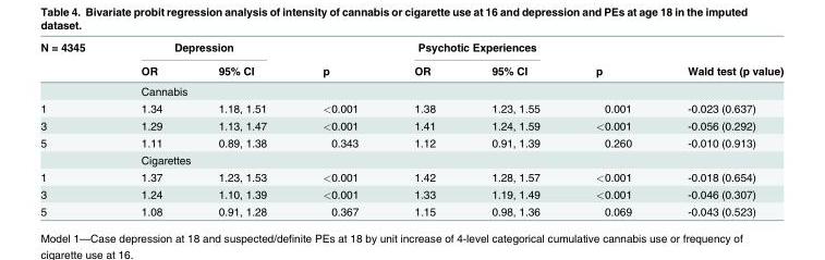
<table><thead><tr><td rowspan="2">N = 4345</td><td colspan="2">Depression</td><td rowspan="2">p</td><td colspan="2">Psychotic Experiences</td><td rowspan="2">p</td><td rowspan="2">Wald test (p value)</td></tr><tr><td>OR</td><td>95% CI</td><td>OR</td><td>95% CI</td></tr></thead><tbody><tr><td></td><td colspan="7">Cannabis</td></tr><tr><td>1</td><td>1.34</td><td>1.18, 1.51</td><td>&lt;0.001</td><td>1.38</td><td>1.23, 1.55</td><td>0.001</td><td>-0.023 (0.637)</td></tr><tr><td>3</td><td>1.29</td><td>1.13, 1.47</td><td>&lt;0.001</td><td>1.41</td><td>1.24, 1.59</td><td>&lt;0.001</td><td>-0.056 (0.292)</td></tr><tr><td rowspan="2">5</td><td>1.11</td><td>0.89, 1.38</td><td>0.343</td><td>1.12</td><td>0.91, 1.39</td><td>0.260</td><td>-0.010 (0.913)</td></tr><tr><td colspan="7">Cigarettes</td></tr><tr><td>1</td><td>1.37</td><td>1.23, 1.53</td><td>&lt;0.001</td><td>1.42</td><td>1.28, 1.57</td><td>&lt;0.001</td><td>-0.018 (0.654)</td></tr><tr><td>3</td><td>1.24</td><td>1.10, 1.39</td><td>&lt;0.001</td><td>1.33</td><td>1.19, 1.49</td><td>&lt;0.001</td><td>-0.046 (0.307)</td></tr><tr><td>5</td><td>1.08</td><td>0.91, 1.28</td><td>0.367</td><td>1.15</td><td>0.98, 1.36</td><td>0.069</td><td>-0.043 (0.523)</td></tr></tbody></table>